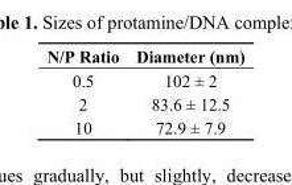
<table><thead><tr><td>N/P Ratio</td><td>Diameter (nm)</td></tr></thead><tbody><tr><td>0.5</td><td>102 ± 2</td></tr><tr><td>2</td><td>83.6 ± 12.5</td></tr><tr><td>10</td><td>72.9 ± 7.9</td></tr></tbody></table>